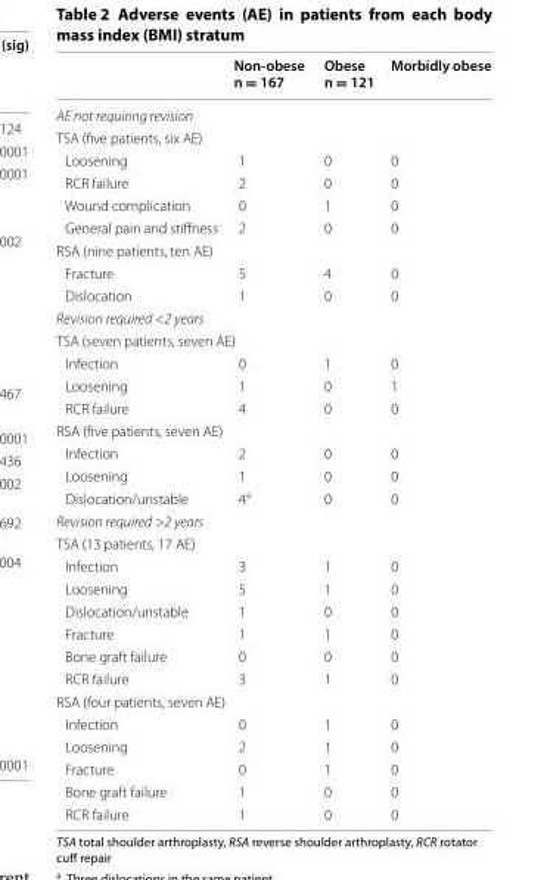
<table><thead><tr><td></td><td>Non‑obese n = 167</td><td>Obese n = 121</td><td>Morbidly obese</td></tr></thead><tbody><tr><td colspan="4">AE not requiring revision</td></tr><tr><td colspan="4">TSA (five patients, six AE)</td></tr><tr><td>Loosening</td><td>1</td><td>0</td><td>0</td></tr><tr><td>RCR failure</td><td>2</td><td>0</td><td>0</td></tr><tr><td>Wound complication</td><td>0</td><td>1</td><td>0</td></tr><tr><td>General pain and stiffness</td><td>2</td><td>0</td><td>0</td></tr><tr><td colspan="4">RSA (nine patients, ten AE)</td></tr><tr><td>Fracture</td><td>5</td><td>4</td><td>0</td></tr><tr><td>Dislocation</td><td>1</td><td>0</td><td>0</td></tr><tr><td colspan="4">Revision required &lt;2 years</td></tr><tr><td colspan="4">TSA (seven patients, seven AE)</td></tr><tr><td>Infection</td><td>0</td><td>1</td><td>0</td></tr><tr><td>Loosening</td><td>1</td><td>0</td><td>1</td></tr><tr><td>RCR failure</td><td>4</td><td>0</td><td>0</td></tr><tr><td colspan="4">RSA (five patients, seven AE)</td></tr><tr><td>Infection</td><td>2</td><td>0</td><td>0</td></tr><tr><td>Loosening</td><td>1</td><td>0</td><td>0</td></tr><tr><td>Dislocation/unstable</td><td>4<sup>a</sup></td><td>0</td><td>0</td></tr><tr><td colspan="4">Revision required &gt;2 years</td></tr><tr><td colspan="4">TSA (13 patients, 17 AE)</td></tr><tr><td>Infection</td><td>3</td><td>1</td><td>0</td></tr><tr><td>Loosening</td><td>5</td><td>1</td><td>0</td></tr><tr><td>Dislocation/unstable</td><td>1</td><td>0</td><td>0</td></tr><tr><td>Fracture</td><td>1</td><td>1</td><td>0</td></tr><tr><td>Bone graft failure</td><td>0</td><td>0</td><td>0</td></tr><tr><td>RCR failure</td><td>3</td><td>1</td><td>0</td></tr><tr><td colspan="4">RSA (four patients, seven AE)</td></tr><tr><td>Infection</td><td>0</td><td>1</td><td>0</td></tr><tr><td>Loosening</td><td>2</td><td>1</td><td>0</td></tr><tr><td>Fracture</td><td>0</td><td>1</td><td>0</td></tr><tr><td>Bone graft failure</td><td>1</td><td>0</td><td>0</td></tr><tr><td>RCR failure</td><td>1</td><td>0</td><td>0</td></tr></tbody></table>